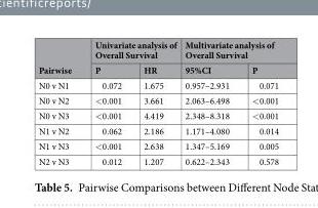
<table><thead><tr><td rowspan="2">Pairwise</td><td colspan="2">Univariate analysis of Overall Survival</td><td colspan="2">Multivariate analysis of Overall Survival</td></tr><tr><td>P</td><td>HR</td><td>95%CI</td><td>P</td></tr></thead><tbody><tr><td>N0 v N1</td><td>0.072</td><td>1.675</td><td>0.957–2.931</td><td>0.071</td></tr><tr><td>N0 v N2</td><td>&lt;0.001</td><td>3.661</td><td>2.063–6.498</td><td>&lt;0.001</td></tr><tr><td>N0 v N3</td><td>&lt;0.001</td><td>4.419</td><td>2.348–8.318</td><td>&lt;0.001</td></tr><tr><td>N1 v N2</td><td>0.062</td><td>2.186</td><td>1.171–4.080</td><td>0.014</td></tr><tr><td>N1 v N3</td><td>&lt;0.001</td><td>2.638</td><td>1.347–5.169</td><td>0.005</td></tr><tr><td>N2 v N3</td><td>0.012</td><td>1.207</td><td>0.622–2.343</td><td>0.578</td></tr></tbody></table>